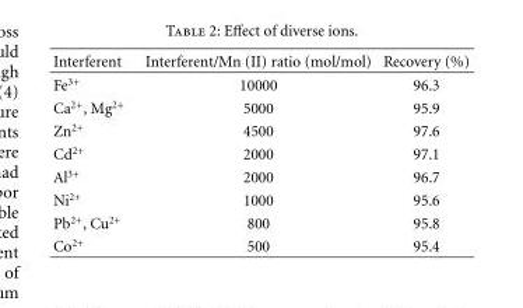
<table><thead><tr><td>Interferent</td><td>Interferent/Mn (II) ratio (mol/mol)</td><td>Recovery (%)</td></tr></thead><tbody><tr><td>Fe<sup>3+</sup></td><td>10000</td><td>96.3</td></tr><tr><td>Ca<sup>2+</sup>, Mg<sup>2+</sup></td><td>5000</td><td>95.9</td></tr><tr><td>Zn<sup>2+</sup></td><td>4500</td><td>97.6</td></tr><tr><td>Cd<sup>2+</sup></td><td>2000</td><td>97.1</td></tr><tr><td>Al<sup>3+</sup></td><td>2000</td><td>96.7</td></tr><tr><td>Ni<sup>2+</sup></td><td>1000</td><td>95.6</td></tr><tr><td>Pb<sup>2+</sup>, Cu<sup>2+</sup></td><td>800</td><td>95.8</td></tr><tr><td>Co<sup>2+</sup></td><td>500</td><td>95.4</td></tr></tbody></table>